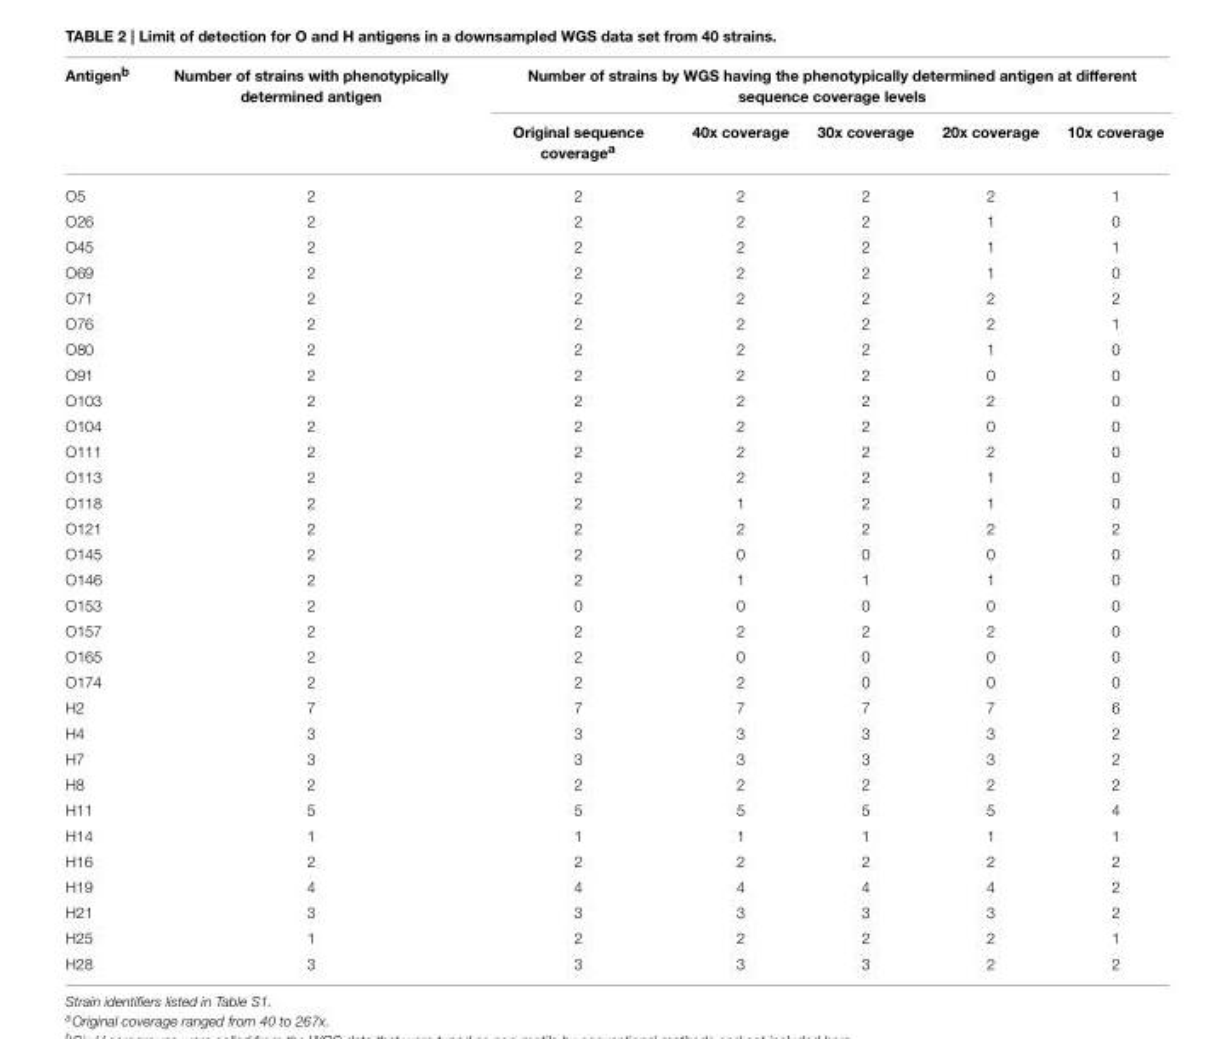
<table><thead><tr><td rowspan="2">Antigen<sup>b</sup></td><td rowspan="2">Number of strains with phenotypically determined antigen</td><td colspan="5">Number of strains by WGS having the phenotypically determined antigen at different sequence coverage levels</td></tr><tr><td>Original sequence coverage<sup>a</sup></td><td>40x coverage</td><td>30x coverage</td><td>20x coverage</td><td>10x coverage</td></tr></thead><tbody><tr><td>O5</td><td>2</td><td>2</td><td>2</td><td>2</td><td>2</td><td>1</td></tr><tr><td>O26</td><td>2</td><td>2</td><td>2</td><td>2</td><td>1</td><td>0</td></tr><tr><td>O45</td><td>2</td><td>2</td><td>2</td><td>2</td><td>1</td><td>1</td></tr><tr><td>O69</td><td>2</td><td>2</td><td>2</td><td>2</td><td>1</td><td>0</td></tr><tr><td>O71</td><td>2</td><td>2</td><td>2</td><td>2</td><td>2</td><td>2</td></tr><tr><td>O76</td><td>2</td><td>2</td><td>2</td><td>2</td><td>2</td><td>1</td></tr><tr><td>O80</td><td>2</td><td>2</td><td>2</td><td>2</td><td>1</td><td>0</td></tr><tr><td>O91</td><td>2</td><td>2</td><td>2</td><td>2</td><td>0</td><td>0</td></tr><tr><td>O103</td><td>2</td><td>2</td><td>2</td><td>2</td><td>2</td><td>0</td></tr><tr><td>O104</td><td>2</td><td>2</td><td>2</td><td>2</td><td>0</td><td>0</td></tr><tr><td>O111</td><td>2</td><td>2</td><td>2</td><td>2</td><td>2</td><td>0</td></tr><tr><td>O113</td><td>2</td><td>2</td><td>2</td><td>2</td><td>1</td><td>0</td></tr><tr><td>O118</td><td>2</td><td>2</td><td>1</td><td>2</td><td>1</td><td>0</td></tr><tr><td>O121</td><td>2</td><td>2</td><td>2</td><td>2</td><td>2</td><td>2</td></tr><tr><td>O145</td><td>2</td><td>2</td><td>0</td><td>0</td><td>0</td><td>0</td></tr><tr><td>O146</td><td>2</td><td>2</td><td>1</td><td>1</td><td>1</td><td>0</td></tr><tr><td>O153</td><td>2</td><td>0</td><td>0</td><td>0</td><td>0</td><td>0</td></tr><tr><td>O157</td><td>2</td><td>2</td><td>2</td><td>2</td><td>2</td><td>0</td></tr><tr><td>O165</td><td>2</td><td>2</td><td>0</td><td>0</td><td>0</td><td>0</td></tr><tr><td>O174</td><td>2</td><td>2</td><td>2</td><td>0</td><td>0</td><td>0</td></tr><tr><td>H2</td><td>7</td><td>7</td><td>7</td><td>7</td><td>7</td><td>6</td></tr><tr><td>H4</td><td>3</td><td>3</td><td>3</td><td>3</td><td>3</td><td>2</td></tr><tr><td>H7</td><td>3</td><td>3</td><td>3</td><td>3</td><td>3</td><td>2</td></tr><tr><td>H8</td><td>2</td><td>2</td><td>2</td><td>2</td><td>2</td><td>2</td></tr><tr><td>H11</td><td>5</td><td>5</td><td>5</td><td>5</td><td>5</td><td>4</td></tr><tr><td>H14</td><td>1</td><td>1</td><td>1</td><td>1</td><td>1</td><td>1</td></tr><tr><td>H16</td><td>2</td><td>2</td><td>2</td><td>2</td><td>2</td><td>2</td></tr><tr><td>H19</td><td>4</td><td>4</td><td>4</td><td>4</td><td>4</td><td>2</td></tr><tr><td>H21</td><td>3</td><td>3</td><td>3</td><td>3</td><td>3</td><td>2</td></tr><tr><td>H25</td><td>1</td><td>2</td><td>2</td><td>2</td><td>2</td><td>1</td></tr><tr><td>H28</td><td>3</td><td>3</td><td>3</td><td>3</td><td>2</td><td>2</td></tr></tbody></table>